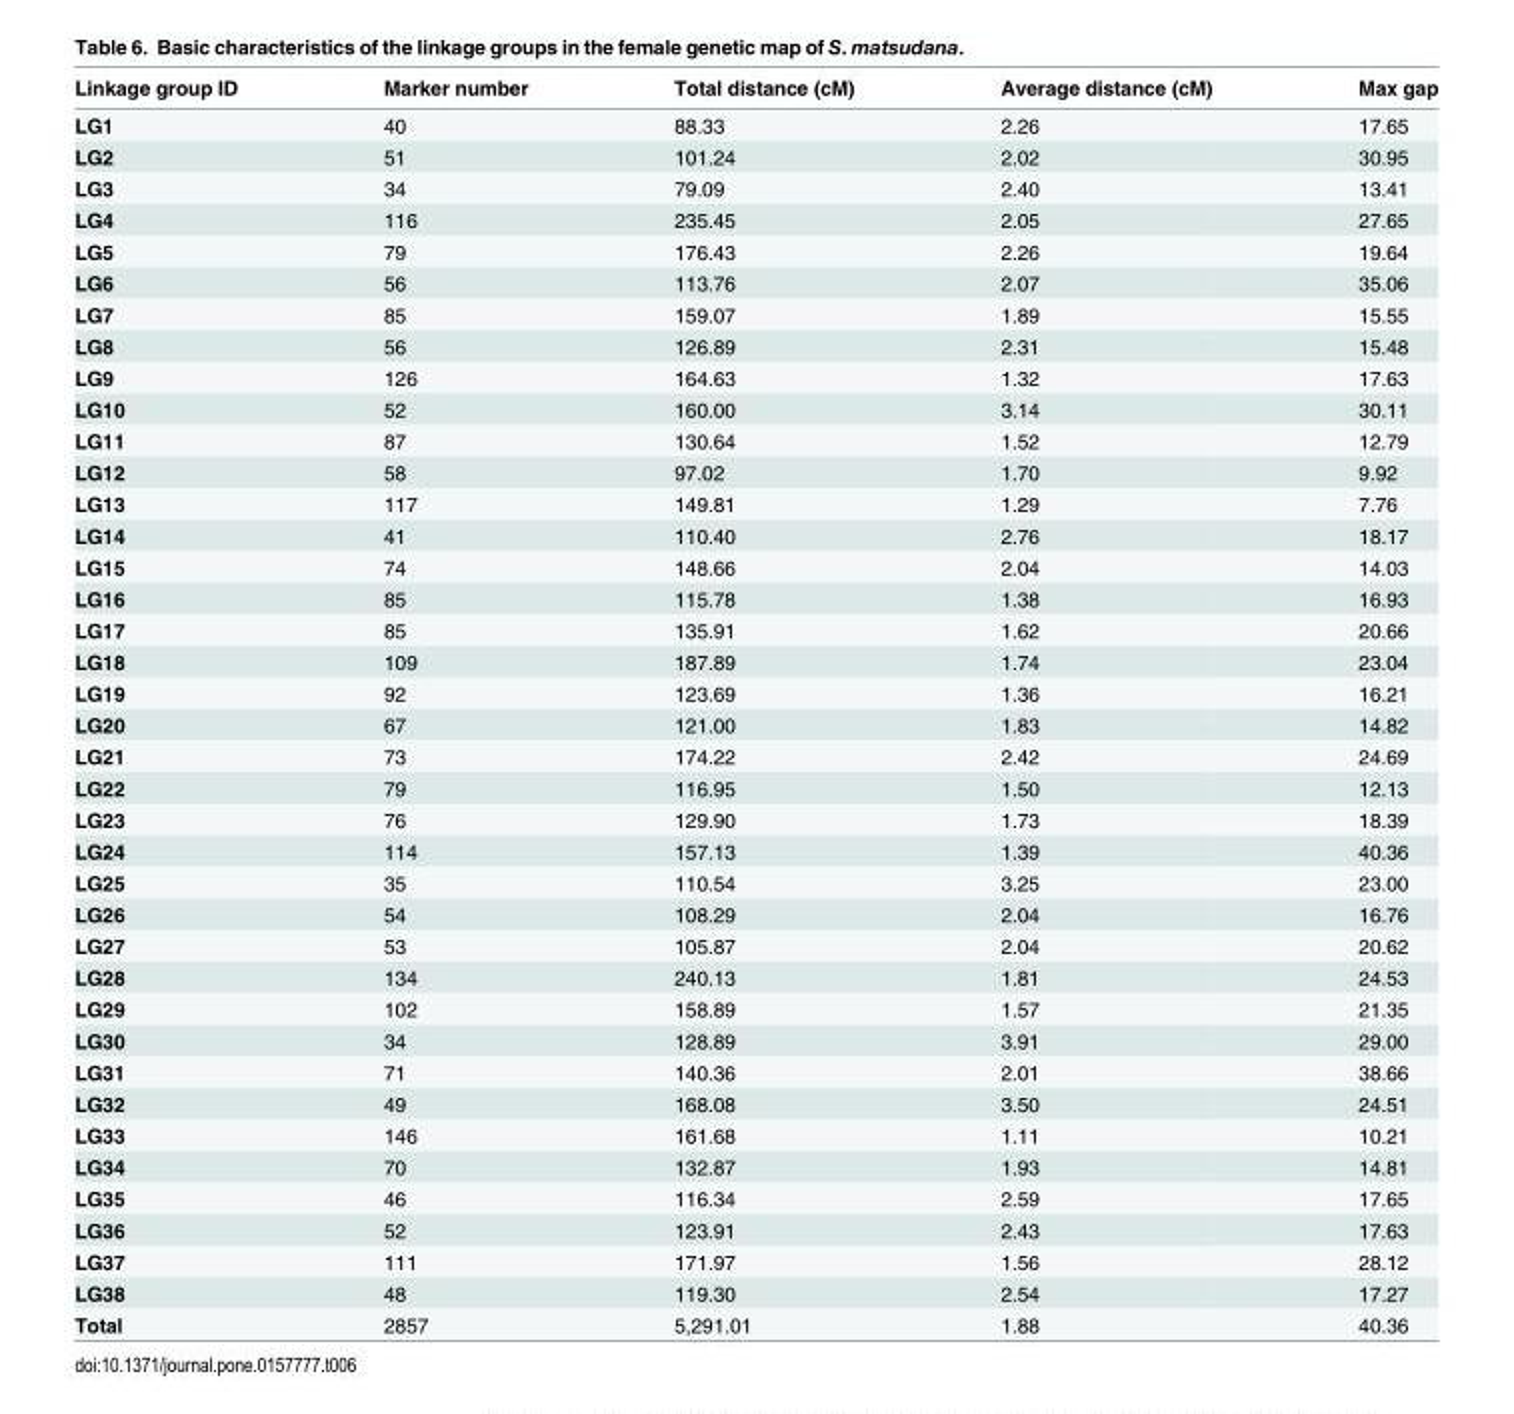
<table><thead><tr><td>Linkage group ID</td><td>Marker number</td><td>Total distance (cM)</td><td>Average distance (cM)</td><td>Max gap</td></tr></thead><tbody><tr><td>LG1</td><td>40</td><td>88.33</td><td>2.26</td><td>17.65</td></tr><tr><td>LG2</td><td>51</td><td>101.24</td><td>2.02</td><td>30.95</td></tr><tr><td>LG3</td><td>34</td><td>79.09</td><td>2.40</td><td>13.41</td></tr><tr><td>LG4</td><td>116</td><td>235.45</td><td>2.05</td><td>27.65</td></tr><tr><td>LG5</td><td>79</td><td>176.43</td><td>2.26</td><td>19.64</td></tr><tr><td>LG6</td><td>56</td><td>113.76</td><td>2.07</td><td>35.06</td></tr><tr><td>LG7</td><td>85</td><td>159.07</td><td>1.89</td><td>15.55</td></tr><tr><td>LG8</td><td>56</td><td>126.89</td><td>2.31</td><td>15.48</td></tr><tr><td>LG9</td><td>126</td><td>164.63</td><td>1.32</td><td>17.63</td></tr><tr><td>LG10</td><td>52</td><td>160.00</td><td>3.14</td><td>30.11</td></tr><tr><td>LG11</td><td>87</td><td>130.64</td><td>1.52</td><td>12.79</td></tr><tr><td>LG12</td><td>58</td><td>97.02</td><td>1.70</td><td>9.92</td></tr><tr><td>LG13</td><td>117</td><td>149.81</td><td>1.29</td><td>7.76</td></tr><tr><td>LG14</td><td>41</td><td>110.40</td><td>2.76</td><td>18.17</td></tr><tr><td>LG15</td><td>74</td><td>148.66</td><td>2.04</td><td>14.03</td></tr><tr><td>LG16</td><td>85</td><td>115.78</td><td>1.38</td><td>16.93</td></tr><tr><td>LG17</td><td>85</td><td>135.91</td><td>1.62</td><td>20.66</td></tr><tr><td>LG18</td><td>109</td><td>187.89</td><td>1.74</td><td>23.04</td></tr><tr><td>LG19</td><td>92</td><td>123.69</td><td>1.36</td><td>16.21</td></tr><tr><td>LG20</td><td>67</td><td>121.00</td><td>1.83</td><td>14.82</td></tr><tr><td>LG21</td><td>73</td><td>174.22</td><td>2.42</td><td>24.69</td></tr><tr><td>LG22</td><td>79</td><td>116.95</td><td>1.50</td><td>12.13</td></tr><tr><td>LG23</td><td>76</td><td>129.90</td><td>1.73</td><td>18.39</td></tr><tr><td>LG24</td><td>114</td><td>157.13</td><td>1.39</td><td>40.36</td></tr><tr><td>LG25</td><td>35</td><td>110.54</td><td>3.25</td><td>23.00</td></tr><tr><td>LG26</td><td>54</td><td>108.29</td><td>2.04</td><td>16.76</td></tr><tr><td>LG27</td><td>53</td><td>105.87</td><td>2.04</td><td>20.62</td></tr><tr><td>LG28</td><td>134</td><td>240.13</td><td>1.81</td><td>24.53</td></tr><tr><td>LG29</td><td>102</td><td>158.89</td><td>1.57</td><td>21.35</td></tr><tr><td>LG30</td><td>34</td><td>128.89</td><td>3.91</td><td>29.00</td></tr><tr><td>LG31</td><td>71</td><td>140.36</td><td>2.01</td><td>38.66</td></tr><tr><td>LG32</td><td>49</td><td>168.08</td><td>3.50</td><td>24.51</td></tr><tr><td>LG33</td><td>146</td><td>161.68</td><td>1.11</td><td>10.21</td></tr><tr><td>LG34</td><td>70</td><td>132.87</td><td>1.93</td><td>14.81</td></tr><tr><td>LG35</td><td>46</td><td>116.34</td><td>2.59</td><td>17.65</td></tr><tr><td>LG36</td><td>52</td><td>123.91</td><td>2.43</td><td>17.63</td></tr><tr><td>LG37</td><td>111</td><td>171.97</td><td>1.56</td><td>28.12</td></tr><tr><td>LG38</td><td>48</td><td>119.30</td><td>2.54</td><td>17.27</td></tr><tr><td>Total</td><td>2857</td><td>5,291.01</td><td>1.88</td><td>40.36</td></tr></tbody></table>